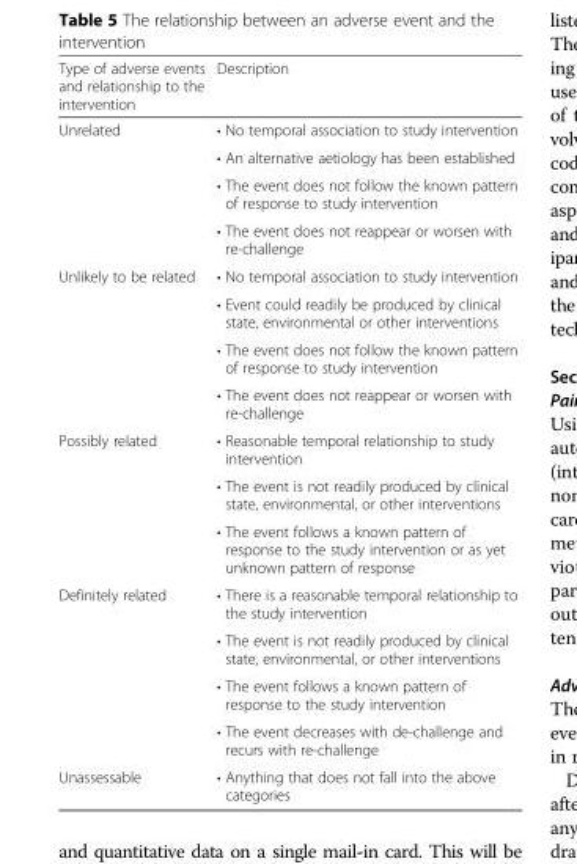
<table><thead><tr><td>Type of adverse events and relationship to the intervention</td><td>Description</td></tr></thead><tbody><tr><td rowspan="4">Unrelated</td><td>• No temporal association to study intervention</td></tr><tr><td>• An alternative aetiology has been established</td></tr><tr><td>• The event does not follow the known pattern of response to study intervention</td></tr><tr><td>• The event does not reappear or worsen with re-challenge</td></tr><tr><td rowspan="4">Unlikely to be related</td><td>• No temporal association to study intervention</td></tr><tr><td>• Event could readily be produced by clinical state, environmental or other interventions</td></tr><tr><td>• The event does not follow the known pattern of response to study intervention</td></tr><tr><td>• The event does not reappear or worsen with re-challenge</td></tr><tr><td rowspan="3">Possibly related</td><td>• Reasonable temporal relationship to study intervention</td></tr><tr><td>• The event is not readily produced by clinical state, environmental, or other interventions</td></tr><tr><td>• The event follows a known pattern of response to the study intervention or as yet unknown pattern of response</td></tr><tr><td rowspan="4">Definitely related</td><td>• There is a reasonable temporal relationship to the study intervention</td></tr><tr><td>• The event is not readily produced by clinical state, environmental, or other interventions</td></tr><tr><td>• The event follows a known pattern of response to the study intervention</td></tr><tr><td>• The event decreases with de-challenge and recurs with re-challenge</td></tr><tr><td>Unassessable</td><td>• Anything that does not fall into the above categories</td></tr></tbody></table>